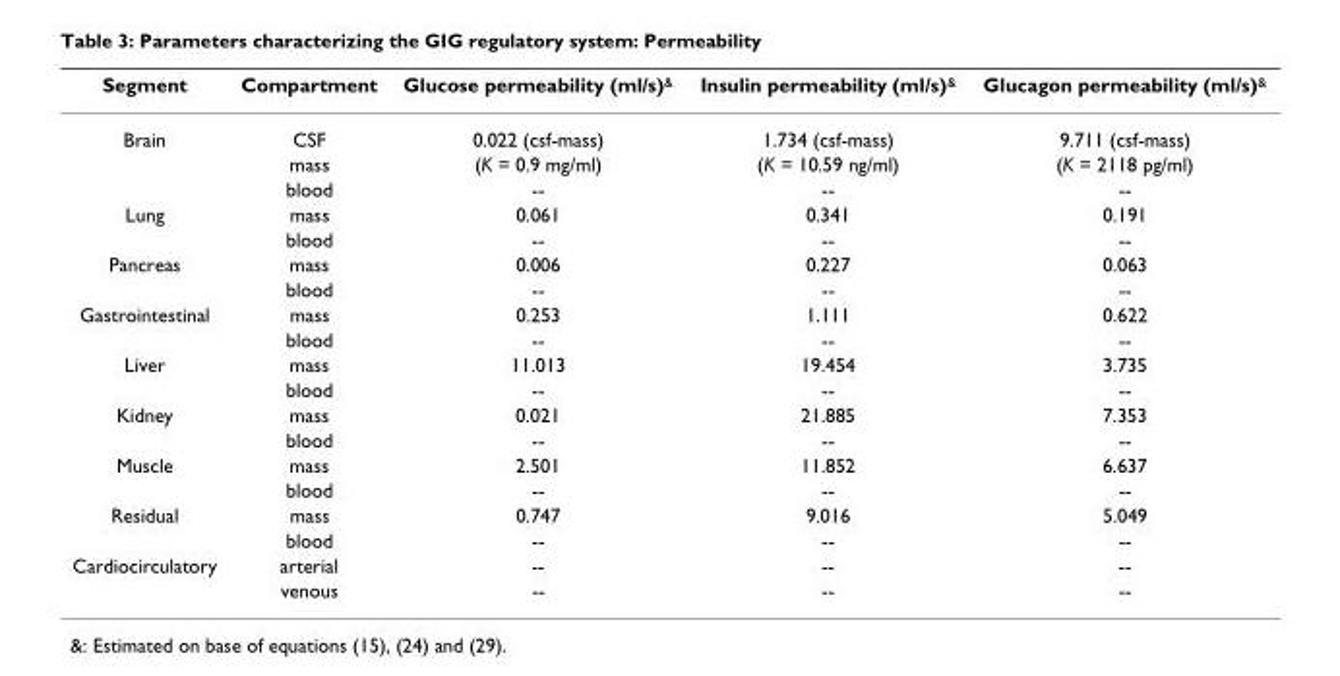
<table><thead><tr><td>Segment</td><td>Compartment</td><td>Glucose permeability (ml/s)<sup>&amp;</sup></td><td>Insulin permeability (ml/s)<sup>&amp;</sup></td><td>Glucagon permeability (ml/s)<sup>&amp;</sup></td></tr></thead><tbody><tr><td rowspan="3">Brain</td><td>CSF</td><td>0.022 (csf-mass)</td><td>1.734 (csf-mass)</td><td>9.711 (csf-mass)</td></tr><tr><td>mass</td><td>(K = 0.9 mg/ml)</td><td>(K = 10.59 ng/ml)</td><td>(K = 2118 pg/ml)</td></tr><tr><td>blood</td><td>--</td><td>--</td><td>--</td></tr><tr><td rowspan="2">Lung</td><td>mass</td><td>0.061</td><td>0.341</td><td>0.191</td></tr><tr><td>blood</td><td>--</td><td>--</td><td>--</td></tr><tr><td rowspan="2">Pancreas</td><td>mass</td><td>0.006</td><td>0.227</td><td>0.063</td></tr><tr><td>blood</td><td>--</td><td>--</td><td>--</td></tr><tr><td rowspan="2">Gastrointestinal</td><td>mass</td><td>0.253</td><td>1.111</td><td>0.622</td></tr><tr><td>blood</td><td>--</td><td>--</td><td>--</td></tr><tr><td rowspan="2">Liver</td><td>mass</td><td>11.013</td><td>19.454</td><td>3.735</td></tr><tr><td>blood</td><td>--</td><td>--</td><td>--</td></tr><tr><td rowspan="2">Kidney</td><td>mass</td><td>0.021</td><td>21.885</td><td>7.353</td></tr><tr><td>blood</td><td>--</td><td>--</td><td>--</td></tr><tr><td rowspan="2">Muscle</td><td>mass</td><td>2.501</td><td>11.852</td><td>6.637</td></tr><tr><td>blood</td><td>--</td><td>--</td><td>--</td></tr><tr><td rowspan="2">Residual</td><td>mass</td><td>0.747</td><td>9.016</td><td>5.049</td></tr><tr><td>blood</td><td>--</td><td>--</td><td>--</td></tr><tr><td rowspan="2">Cardiocirculatory</td><td>arterial</td><td>--</td><td>--</td><td>--</td></tr><tr><td>venous</td><td>--</td><td>--</td><td>--</td></tr></tbody></table>